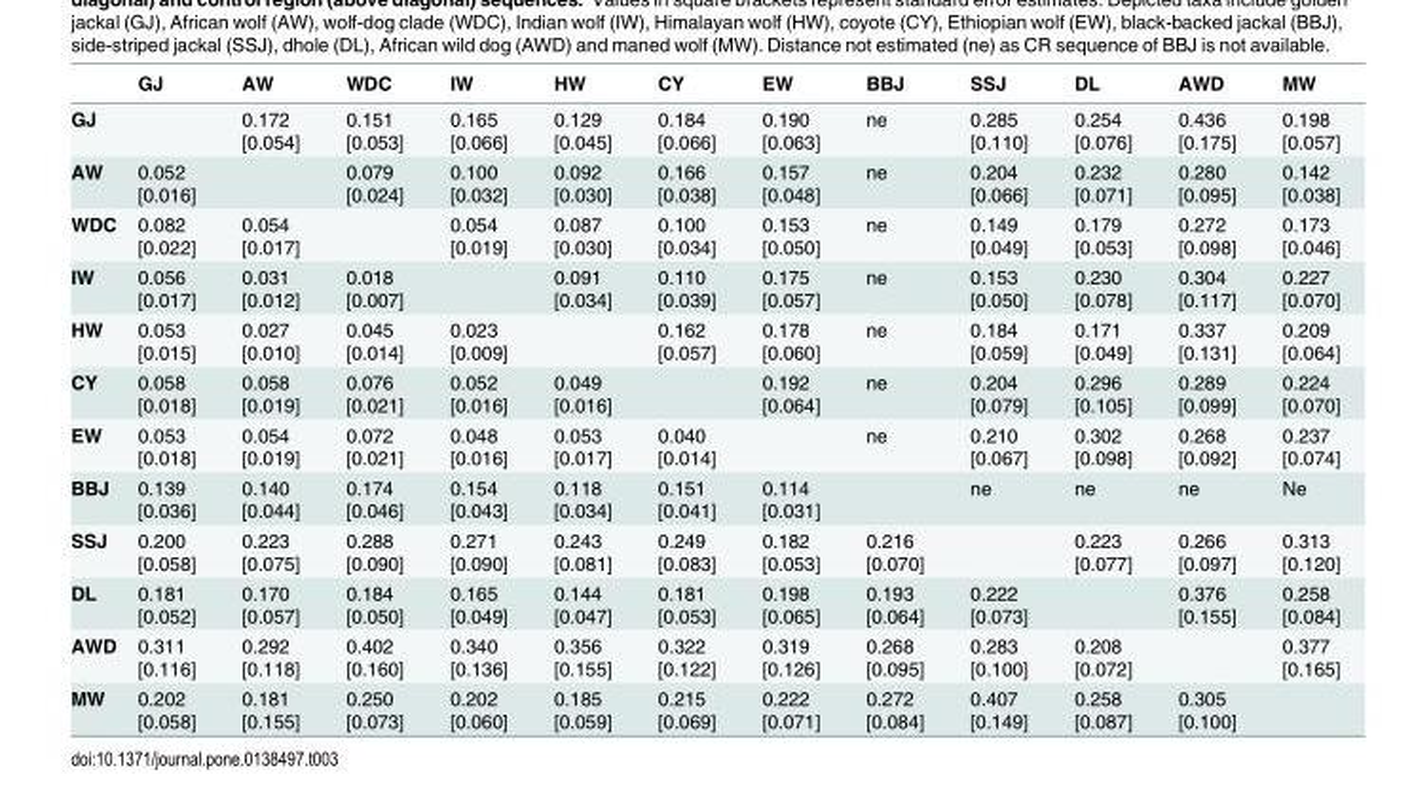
<table><thead><tr><td></td><td>GJ</td><td>AW</td><td>WDC</td><td>IW</td><td>HW</td><td>CY</td><td>EW</td><td>BBJ</td><td>SSJ</td><td>DL</td><td>AWD</td><td>MW</td></tr></thead><tbody><tr><td>GJ</td><td></td><td>0.172 [0.054]</td><td>0.151 [0.053]</td><td>0.165 [0.066]</td><td>0.129 [0.045]</td><td>0.184 [0.066]</td><td>0.190 [0.063]</td><td>ne</td><td>0.285 [0.110]</td><td>0.254 [0.076]</td><td>0.436 [0.175]</td><td>0.198 [0.057]</td></tr><tr><td>AW</td><td>0.052 [0.016]</td><td></td><td>0.079 [0.024]</td><td>0.100 [0.032]</td><td>0.092 [0.030]</td><td>0.166 [0.038]</td><td>0.157 [0.048]</td><td>ne</td><td>0.204 [0.066]</td><td>0.232 [0.071]</td><td>0.280 [0.095]</td><td>0.142 [0.038]</td></tr><tr><td>WDC</td><td>0.082 [0.022]</td><td>0.054 [0.017]</td><td></td><td>0.054 [0.019]</td><td>0.087 [0.030]</td><td>0.100 [0.034]</td><td>0.153 [0.050]</td><td>ne</td><td>0.149 [0.049]</td><td>0.179 [0.053]</td><td>0.272 [0.098]</td><td>0.173 [0.046]</td></tr><tr><td>IW</td><td>0.056 [0.017]</td><td>0.031 [0.012]</td><td>0.018 [0.007]</td><td></td><td>0.091 [0.034]</td><td>0.110 [0.039]</td><td>0.175 [0.057]</td><td>ne</td><td>0.153 [0.050]</td><td>0.230 [0.078]</td><td>0.304 [0.117]</td><td>0.227 [0.070]</td></tr><tr><td>HW</td><td>0.053 [0.015]</td><td>0.027 [0.010]</td><td>0.045 [0.014]</td><td>0.023 [0.009]</td><td></td><td>0.162 [0.057]</td><td>0.178 [0.060]</td><td>ne</td><td>0.184 [0.059]</td><td>0.171 [0.049]</td><td>0.337 [0.131]</td><td>0.209 [0.064]</td></tr><tr><td>CY</td><td>0.058 [0.018]</td><td>0.058 [0.019]</td><td>0.076 [0.021]</td><td>0.052 [0.016]</td><td>0.049 [0.016]</td><td></td><td>0.192 [0.064]</td><td>ne</td><td>0.204 [0.079]</td><td>0.296 [0.105]</td><td>0.289 [0.099]</td><td>0.224 [0.070]</td></tr><tr><td>EW</td><td>0.053 [0.018]</td><td>0.054 [0.019]</td><td>0.072 [0.021]</td><td>0.048 [0.016]</td><td>0.053 [0.017]</td><td>0.040 [0.014]</td><td></td><td>ne</td><td>0.210 [0.067]</td><td>0.302 [0.098]</td><td>0.268 [0.092]</td><td>0.237 [0.074]</td></tr><tr><td>BBJ</td><td>0.139 [0.036]</td><td>0.140 [0.044]</td><td>0.174 [0.046]</td><td>0.154 [0.043]</td><td>0.118 [0.034]</td><td>0.151 [0.041]</td><td>0.114 [0.031]</td><td></td><td>ne</td><td>ne</td><td>ne</td><td>Ne</td></tr><tr><td>SSJ</td><td>0.200 [0.058]</td><td>0.223 [0.075]</td><td>0.288 [0.090]</td><td>0.271 [0.090]</td><td>0.243 [0.081]</td><td>0.249 [0.083]</td><td>0.182 [0.053]</td><td>0.216 [0.070]</td><td></td><td>0.223 [0.077]</td><td>0.266 [0.097]</td><td>0.313 [0.120]</td></tr><tr><td>DL</td><td>0.181 [0.052]</td><td>0.170 [0.057]</td><td>0.184 [0.050]</td><td>0.165 [0.049]</td><td>0.144 [0.047]</td><td>0.181 [0.053]</td><td>0.198 [0.065]</td><td>0.193 [0.064]</td><td>0.222 [0.073]</td><td></td><td>0.376 [0.155]</td><td>0.258 [0.084]</td></tr><tr><td>AWD</td><td>0.311 [0.116]</td><td>0.292 [0.118]</td><td>0.402 [0.160]</td><td>0.340 [0.136]</td><td>0.356 [0.155]</td><td>0.322 [0.122]</td><td>0.319 [0.126]</td><td>0.268 [0.095]</td><td>0.283 [0.100]</td><td>0.208 [0.072]</td><td></td><td>0.377 [0.165]</td></tr><tr><td>MW</td><td>0.202 [0.058]</td><td>0.181 [0.155]</td><td>0.250 [0.073]</td><td>0.202 [0.060]</td><td>0.185 [0.059]</td><td>0.215 [0.069]</td><td>0.222 [0.071]</td><td>0.272 [0.084]</td><td>0.407 [0.149]</td><td>0.258 [0.087]</td><td>0.305 [0.100]</td><td></td></tr></tbody></table>